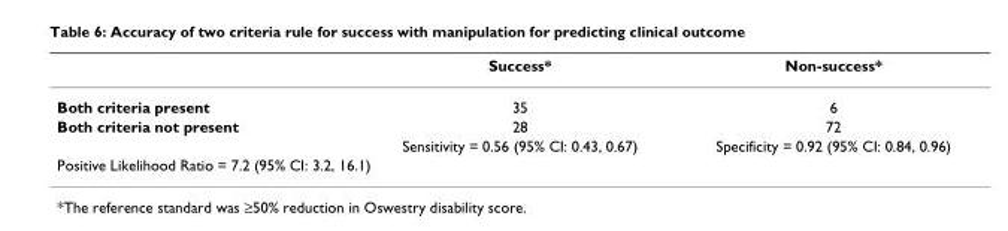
<table><thead><tr><td></td><td>Success*</td><td>Non-success*</td></tr></thead><tbody><tr><td>Both criteria present</td><td>35</td><td>6</td></tr><tr><td rowspan="2">Both criteria not present</td><td>28</td><td>72</td></tr><tr><td>Sensitivity = 0.56 (95% CI: 0.43, 0.67)</td><td>Specificity = 0.92 (95% CI: 0.84, 0.96)</td></tr><tr><td colspan="3">Positive Likelihood Ratio = 7.2 (95% CI: 3.2, 16.1)</td></tr></tbody></table>